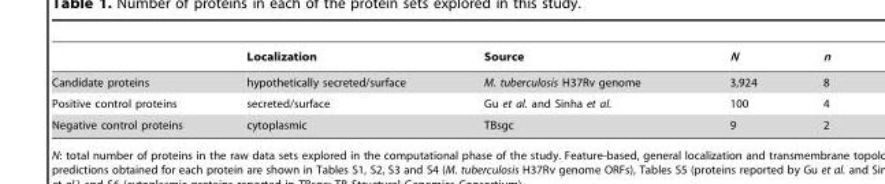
<table><thead><tr><td></td><td>Localization</td><td>Source</td><td>N</td><td>n</td></tr></thead><tbody><tr><td>Candidate proteins</td><td>hypothetically secreted/surface</td><td>M. tuberculosis H37Rv genome</td><td>3,924</td><td>8</td></tr><tr><td>Positive control proteins</td><td>secreted/surface</td><td>Gu et al. and Sinha et al.</td><td>100</td><td>4</td></tr><tr><td>Negative control proteins</td><td>cytoplasmic</td><td>TBsgc</td><td>9</td><td>2</td></tr></tbody></table>